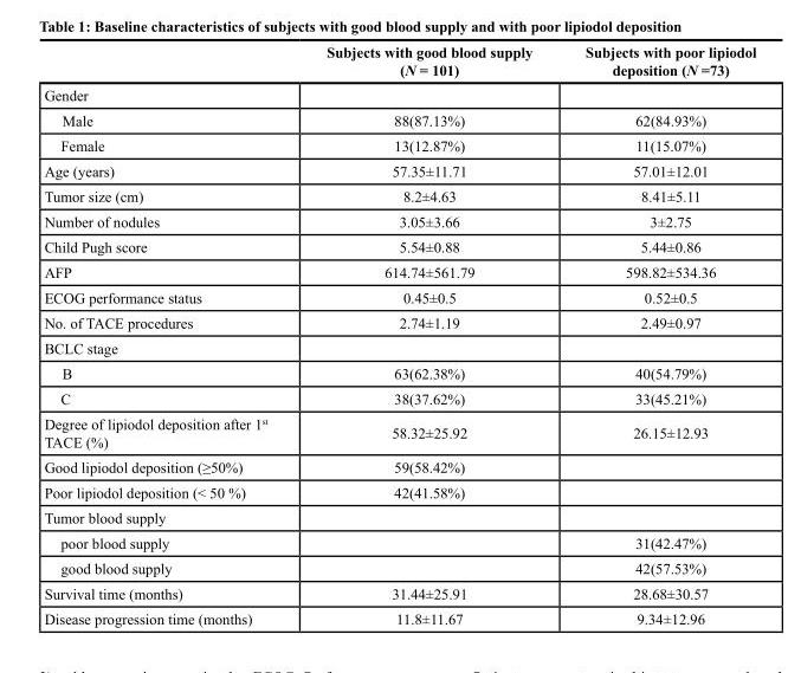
<table><thead><tr><td></td><td>Subjects with good blood supply (N = 101)</td><td>Subjects with poor lipiodol deposition (N =73)</td></tr></thead><tbody><tr><td colspan="3">Gender</td></tr><tr><td>Male</td><td>88(87.13%)</td><td>62(84.93%)</td></tr><tr><td>Female</td><td>13(12.87%)</td><td>11(15.07%)</td></tr><tr><td>Age (years)</td><td>57.35±11.71</td><td>57.01±12.01</td></tr><tr><td>Tumor size (cm)</td><td>8.2±4.63</td><td>8.41±5.11</td></tr><tr><td>Number of nodules</td><td>3.05±3.66</td><td>3±2.75</td></tr><tr><td>Child Pugh score</td><td>5.54±0.88</td><td>5.44±0.86</td></tr><tr><td>AFP</td><td>614.74±561.79</td><td>598.82±534.36</td></tr><tr><td>ECOG performance status</td><td>0.45±0.5</td><td>0.52±0.5</td></tr><tr><td>No. of TACE procedures</td><td>2.74±1.19</td><td>2.49±0.97</td></tr><tr><td colspan="3">BCLC stage</td></tr><tr><td>B</td><td>63(62.38%)</td><td>40(54.79%)</td></tr><tr><td>C</td><td>38(37.62%)</td><td>33(45.21%)</td></tr><tr><td>Degree of lipiodol deposition after 1<sup>st</sup> TACE (%)</td><td>58.32±25.92</td><td>26.15±12.93</td></tr><tr><td>Good lipiodol deposition (≥50%)</td><td>59(58.42%)</td><td></td></tr><tr><td>Poor lipiodol deposition (&lt; 50 %)</td><td>42(41.58%)</td><td></td></tr><tr><td colspan="3">Tumor blood supply</td></tr><tr><td>poor blood supply</td><td></td><td>31(42.47%)</td></tr><tr><td>good blood supply</td><td></td><td>42(57.53%)</td></tr><tr><td>Survival time (months)</td><td>31.44±25.91</td><td>28.68±30.57</td></tr><tr><td>Disease progression time (months)</td><td>11.8±11.67</td><td>9.34±12.96</td></tr></tbody></table>